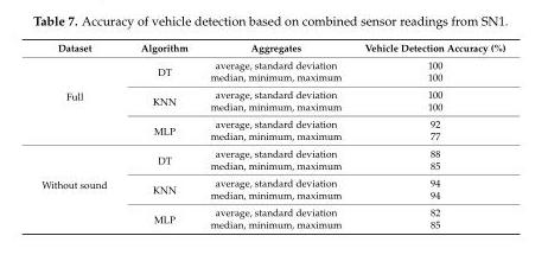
<table><thead><tr><td>Dataset</td><td>Algorithm</td><td>Aggregates</td><td>Vehicle Detection Accuracy (%)</td></tr></thead><tbody><tr><td rowspan="6">Full</td><td rowspan="2">DT</td><td>average, standard deviation</td><td>100</td></tr><tr><td>median, minimum, maximum</td><td>100</td></tr><tr><td rowspan="2">KNN</td><td>average, standard deviation</td><td>100</td></tr><tr><td>median, minimum, maximum</td><td>100</td></tr><tr><td rowspan="2">MLP</td><td>average, standard deviation</td><td>92</td></tr><tr><td>median, minimum, maximum</td><td>77</td></tr><tr><td rowspan="6">Without sound</td><td rowspan="2">DT</td><td>average, standard deviation</td><td>88</td></tr><tr><td>median, minimum, maximum</td><td>85</td></tr><tr><td rowspan="2">KNN</td><td>average, standard deviation</td><td>94</td></tr><tr><td>median, minimum, maximum</td><td>94</td></tr><tr><td rowspan="2">MLP</td><td>average, standard deviation</td><td>82</td></tr><tr><td>median, minimum, maximum</td><td>85</td></tr></tbody></table>